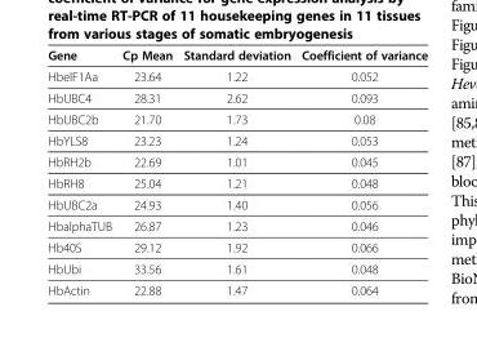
<table><thead><tr><td>Gene</td><td>Cp Mean</td><td>Standard deviation</td><td>Coefficient of variance</td></tr></thead><tbody><tr><td>HbelF1Aa</td><td>23.64</td><td>1.22</td><td>0.052</td></tr><tr><td>HbUBC4</td><td>28.31</td><td>2.62</td><td>0.093</td></tr><tr><td>HbUBC2b</td><td>21.70</td><td>1.73</td><td>0.08</td></tr><tr><td>HbYLS8</td><td>23.23</td><td>1.24</td><td>0.053</td></tr><tr><td>HbRH2b</td><td>22.69</td><td>1.01</td><td>0.045</td></tr><tr><td>HbRH8</td><td>25.04</td><td>1.21</td><td>0.048</td></tr><tr><td>HbUBC2a</td><td>24.93</td><td>1.40</td><td>0.056</td></tr><tr><td>HbalphaTUB</td><td>26.87</td><td>1.23</td><td>0.046</td></tr><tr><td>Hb40S</td><td>29.12</td><td>1.92</td><td>0.066</td></tr><tr><td>HbUbi</td><td>33.56</td><td>1.61</td><td>0.048</td></tr><tr><td>HbActin</td><td>22.88</td><td>1.47</td><td>0.064</td></tr></tbody></table>